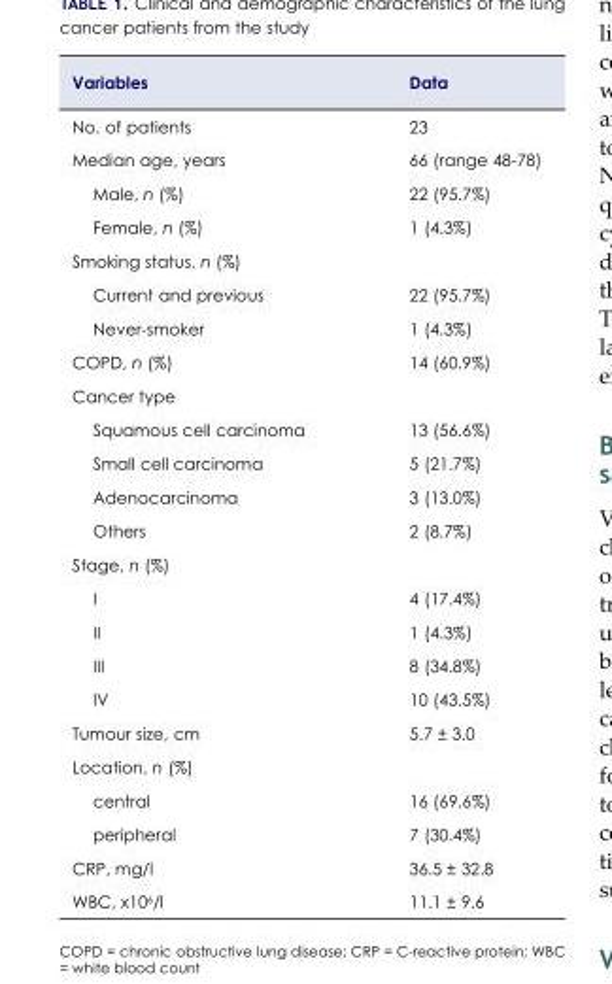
<table><thead><tr><td>Variables</td><td>Data</td></tr></thead><tbody><tr><td>No. of patients</td><td>23</td></tr><tr><td>Median age, years</td><td>66 (range 48-78)</td></tr><tr><td>Male, n (%)</td><td>22 (95.7%)</td></tr><tr><td>Female, n (%)</td><td>1 (4.3%)</td></tr><tr><td colspan="2">Smoking status, n (%)</td></tr><tr><td>Current and previous</td><td>22 (95.7%)</td></tr><tr><td>Never-smoker</td><td>1 (4.3%)</td></tr><tr><td>COPD, n (%)</td><td>14 (60.9%)</td></tr><tr><td colspan="2">Cancer type</td></tr><tr><td>Squamous cell carcinoma</td><td>13 (56.6%)</td></tr><tr><td>Small cell carcinoma</td><td>5 (21.7%)</td></tr><tr><td>Adenocarcinoma</td><td>3 (13.0%)</td></tr><tr><td>Others</td><td>2 (8.7%)</td></tr><tr><td colspan="2">Stage, n (%)</td></tr><tr><td>I</td><td>4 (17.4%)</td></tr><tr><td>II</td><td>1 (4.3%)</td></tr><tr><td>III</td><td>8 (34.8%)</td></tr><tr><td>IV</td><td>10 (43.5%)</td></tr><tr><td>Tumour size, cm</td><td>5.7 ± 3.0</td></tr><tr><td colspan="2">Location, n (%)</td></tr><tr><td>central</td><td>16 (69.6%)</td></tr><tr><td>peripheral</td><td>7 (30.4%)</td></tr><tr><td>CRP, mg/l</td><td>36.5 ± 32.8</td></tr><tr><td>WBC, x106/l</td><td>11.1 ± 9.6</td></tr></tbody></table>